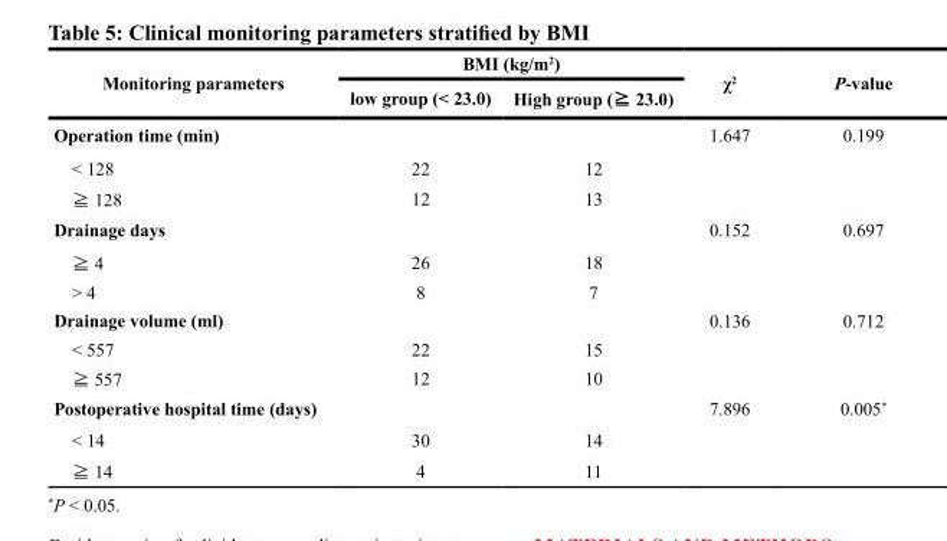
<table><thead><tr><td rowspan="2">Monitoring parameters</td><td colspan="2">BMI (kg/m<sup>2</sup>)</td><td rowspan="2">χ<sup>2</sup></td><td rowspan="2">P-value</td></tr><tr><td>low group (&lt; 23.0)</td><td>High group (≧ 23.0)</td></tr></thead><tbody><tr><td>Operation time (min)</td><td></td><td></td><td>1.647</td><td>0.199</td></tr><tr><td>&lt; 128</td><td>22</td><td>12</td><td></td><td></td></tr><tr><td>≧ 128</td><td>12</td><td>13</td><td></td><td></td></tr><tr><td>Drainage days</td><td></td><td></td><td>0.152</td><td>0.697</td></tr><tr><td>≧ 4</td><td>26</td><td>18</td><td></td><td></td></tr><tr><td>﹥ 4</td><td>8</td><td>7</td><td></td><td></td></tr><tr><td>Drainage volume (ml)</td><td></td><td></td><td>0.136</td><td>0.712</td></tr><tr><td>&lt; 557</td><td>22</td><td>15</td><td></td><td></td></tr><tr><td>≧ 557</td><td>12</td><td>10</td><td></td><td></td></tr><tr><td>Postoperative hospital time (days)</td><td></td><td></td><td>7.896</td><td>0.005*</td></tr><tr><td>&lt; 14</td><td>30</td><td>14</td><td></td><td></td></tr><tr><td>≧ 14</td><td>4</td><td>11</td><td></td><td></td></tr></tbody></table>